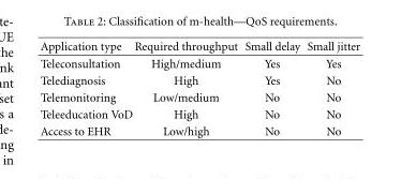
<table><thead><tr><td>Application type</td><td>Required throughput</td><td>Small delay</td><td>Small jitter</td></tr></thead><tbody><tr><td>Teleconsultation</td><td>High/medium</td><td>Yes</td><td>Yes</td></tr><tr><td>Telediagnosis</td><td>High</td><td>Yes</td><td>No</td></tr><tr><td>Telemonitoring</td><td>Low/medium</td><td>No</td><td>No</td></tr><tr><td>Teleeducation VoD</td><td>High</td><td>No</td><td>No</td></tr><tr><td>Access to EHR</td><td>Low/high</td><td>No</td><td>No</td></tr></tbody></table>